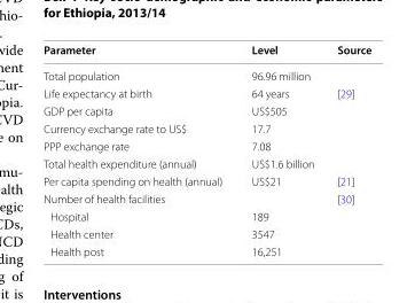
<table><thead><tr><td>Parameter</td><td>Level</td><td>Source</td></tr></thead><tbody><tr><td>Total population</td><td>96.96 million</td><td></td></tr><tr><td>Life expectancy at birth</td><td>64 years</td><td>[29]</td></tr><tr><td>GDP per capita</td><td>US$505</td><td></td></tr><tr><td>Currency exchange rate to US$</td><td>17.7</td><td></td></tr><tr><td>PPP exchange rate</td><td>7.08</td><td></td></tr><tr><td>Total health expenditure (annual)</td><td>US$1.6 billion</td><td></td></tr><tr><td>Per capita spending on health (annual)</td><td>US$21</td><td>[21]</td></tr><tr><td colspan="2">Number of health facilities</td><td rowspan="4">[30]</td></tr><tr><td>Hospital</td><td>189</td></tr><tr><td>Health center</td><td>3547</td></tr><tr><td>Health post</td><td>16,251</td></tr></tbody></table>